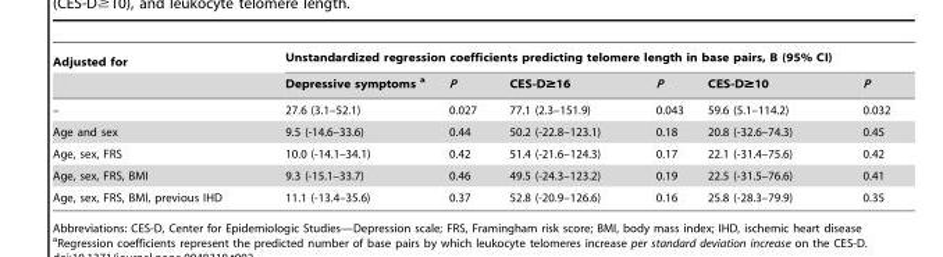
<table><thead><tr><td rowspan="2">Adjusted for</td><td colspan="6">Unstandardized regression coefficients predicting telomere length in base pairs, B (95% CI)</td></tr><tr><td>Depressive symptoms a</td><td>P</td><td>CES-D≥16</td><td>P</td><td>CES-D≥10</td><td>P</td></tr></thead><tbody><tr><td>–</td><td>27.6 (3.1–52.1)</td><td>0.027</td><td>77.1 (2.3–151.9)</td><td>0.043</td><td>59.6 (5.1–114.2)</td><td>0.032</td></tr><tr><td>Age and sex</td><td>9.5 (-14.6–33.6)</td><td>0.44</td><td>50.2 (-22.8–123.1)</td><td>0.18</td><td>20.8 (-32.6–74.3)</td><td>0.45</td></tr><tr><td>Age, sex, FRS</td><td>10.0 (-14.1–34.1)</td><td>0.42</td><td>51.4 (-21.6–124.3)</td><td>0.17</td><td>22.1 (-31.4–75.6)</td><td>0.42</td></tr><tr><td>Age, sex, FRS, BMI</td><td>9.3 (-15.1–33.7)</td><td>0.46</td><td>49.5 (-24.3–123.2)</td><td>0.19</td><td>22.5 (-31.5–76.6)</td><td>0.41</td></tr><tr><td>Age, sex, FRS, BMI, previous IHD</td><td>11.1 (-13.4–35.6)</td><td>0.37</td><td>52.8 (-20.9–126.6)</td><td>0.16</td><td>25.8 (-28.3–79.9)</td><td>0.35</td></tr></tbody></table>